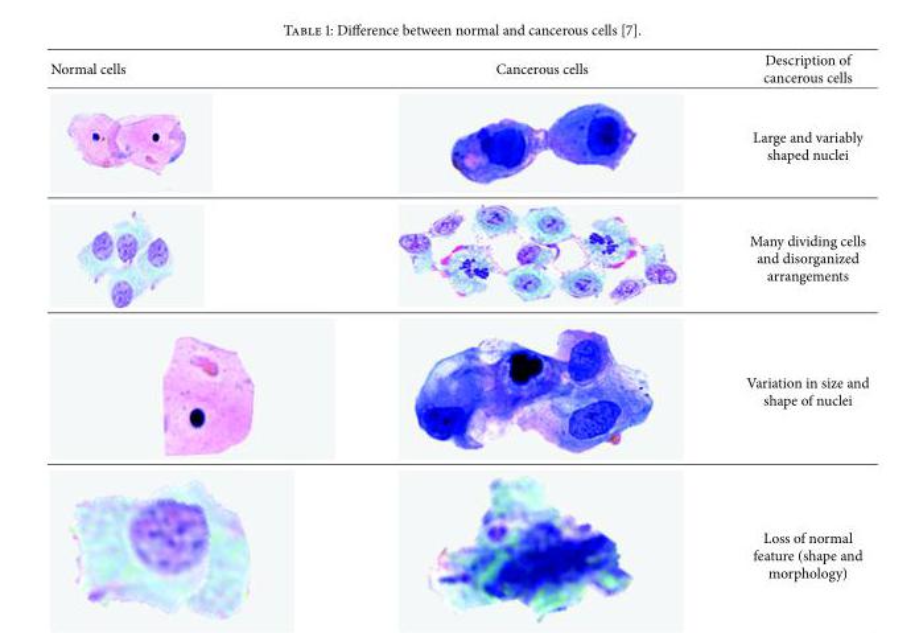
<table><thead><tr><td>Normal cells</td><td>Cancerous cells</td><td>Description of cancerous cells</td></tr></thead><tbody><tr><td></td><td></td><td>Large and variably shaped nuclei</td></tr><tr><td></td><td></td><td>Many dividing cells and disorganized arrangements</td></tr><tr><td></td><td></td><td>Variation in size and shape of nuclei</td></tr><tr><td></td><td></td><td>Loss of normal feature (shape and morphology)</td></tr></tbody></table>